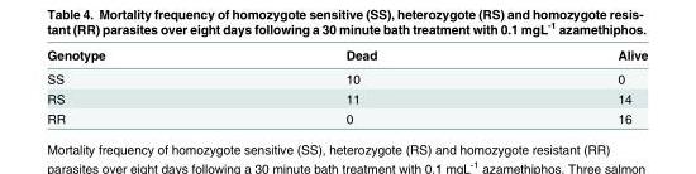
<table><thead><tr><td>Genotype</td><td>Dead</td><td>Alive</td></tr></thead><tbody><tr><td>SS</td><td>10</td><td>0</td></tr><tr><td>RS</td><td>11</td><td>14</td></tr><tr><td>RR</td><td>0</td><td>16</td></tr></tbody></table>